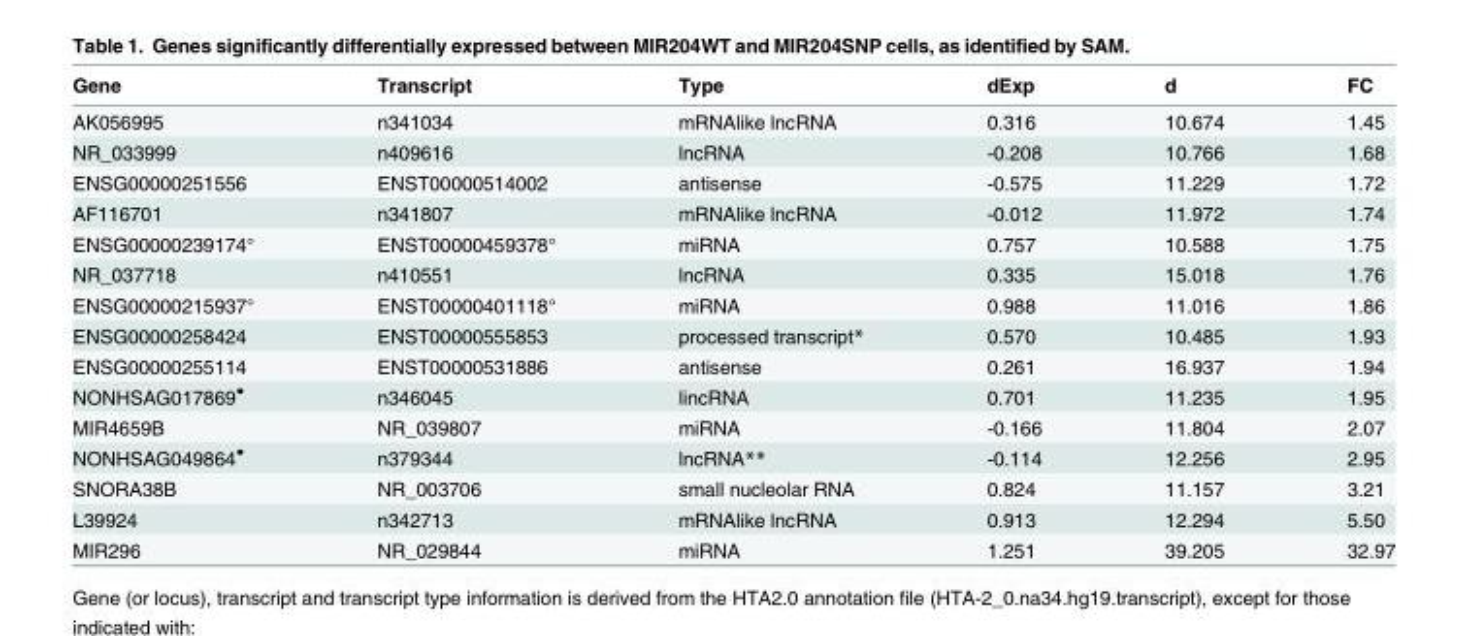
<table><thead><tr><td>Gene</td><td>Transcript</td><td>Type</td><td>dExp</td><td>d</td><td>FC</td></tr></thead><tbody><tr><td>AK056995</td><td>n341034</td><td>mRNAlike lncRNA</td><td>0.316</td><td>10.674</td><td>1.45</td></tr><tr><td>NR_033999</td><td>n409616</td><td>lncRNA</td><td>-0.208</td><td>10.766</td><td>1.68</td></tr><tr><td>ENSG00000251556</td><td>ENST00000514002</td><td>antisense</td><td>-0.575</td><td>11.229</td><td>1.72</td></tr><tr><td>AF116701</td><td>n341807</td><td>mRNAlike lncRNA</td><td>-0.012</td><td>11.972</td><td>1.74</td></tr><tr><td>ENSG00000239174°</td><td>ENST00000459378°</td><td>miRNA</td><td>0.757</td><td>10.588</td><td>1.75</td></tr><tr><td>NR_037718</td><td>n410551</td><td>lncRNA</td><td>0.335</td><td>15.018</td><td>1.76</td></tr><tr><td>ENSG00000215937°</td><td>ENST00000401118°</td><td>miRNA</td><td>0.988</td><td>11.016</td><td>1.86</td></tr><tr><td>ENSG00000258424</td><td>ENST00000555853</td><td>processed transcript*</td><td>0.570</td><td>10.485</td><td>1.93</td></tr><tr><td>ENSG00000255114</td><td>ENST00000531886</td><td>antisense</td><td>0.261</td><td>16.937</td><td>1.94</td></tr><tr><td>NONHSAG017869<sup>●</sup></td><td>n346045</td><td>lincRNA</td><td>0.701</td><td>11.235</td><td>1.95</td></tr><tr><td>MIR4659B</td><td>NR_039807</td><td>miRNA</td><td>-0.166</td><td>11.804</td><td>2.07</td></tr><tr><td>NONHSAG049864<sup>●</sup></td><td>n379344</td><td>lncRNA**</td><td>-0.114</td><td>12.256</td><td>2.95</td></tr><tr><td>SNORA38B</td><td>NR_003706</td><td>small nucleolar RNA</td><td>0.824</td><td>11.157</td><td>3.21</td></tr><tr><td>L39924</td><td>n342713</td><td>mRNAlike lncRNA</td><td>0.913</td><td>12.294</td><td>5.50</td></tr><tr><td>MIR296</td><td>NR_029844</td><td>miRNA</td><td>1.251</td><td>39.205</td><td>32.97</td></tr></tbody></table>